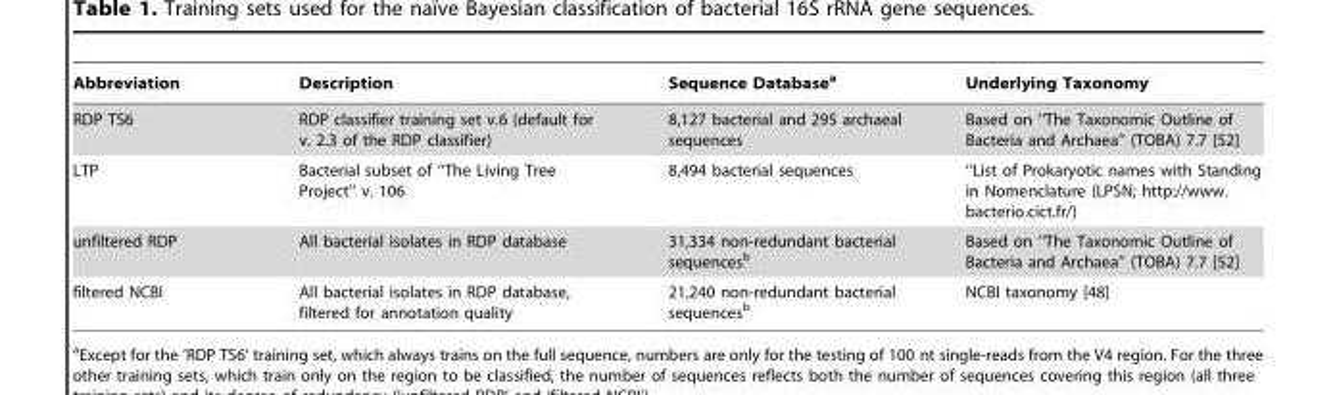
<table><thead><tr><td>Abbreviation</td><td>Description</td><td>Sequence Database<sup>a</sup></td><td>Underlying Taxonomy</td></tr></thead><tbody><tr><td>RDP TS6</td><td>RDP classifier training set v.6 (default for v. 2.3 of the RDP classifier)</td><td>8,127 bacterial and 295 archaeal sequences</td><td>Based on ‘‘The Taxonomic Outline of Bacteria and Archaea’’ (TOBA) 7.7 [52]</td></tr><tr><td>LTP</td><td>Bacterial subset of ‘‘The Living Tree Project’’ v. 106</td><td>8,494 bacterial sequences</td><td>‘‘List of Prokaryotic names with Standing in Nomenclature (LPSN; http://www. bacterio.cict.fr/)</td></tr><tr><td>unfiltered RDP</td><td>All bacterial isolates in RDP database</td><td>31,334 non-redundant bacterial sequences<sup>b</sup></td><td>Based on ‘‘The Taxonomic Outline of Bacteria and Archaea’’ (TOBA) 7.7 [52]</td></tr><tr><td>filtered NCBI</td><td>All bacterial isolates in RDP database, filtered for annotation quality</td><td>21,240 non-redundant bacterial sequences<sup>b</sup></td><td>NCBI taxonomy [48]</td></tr></tbody></table>